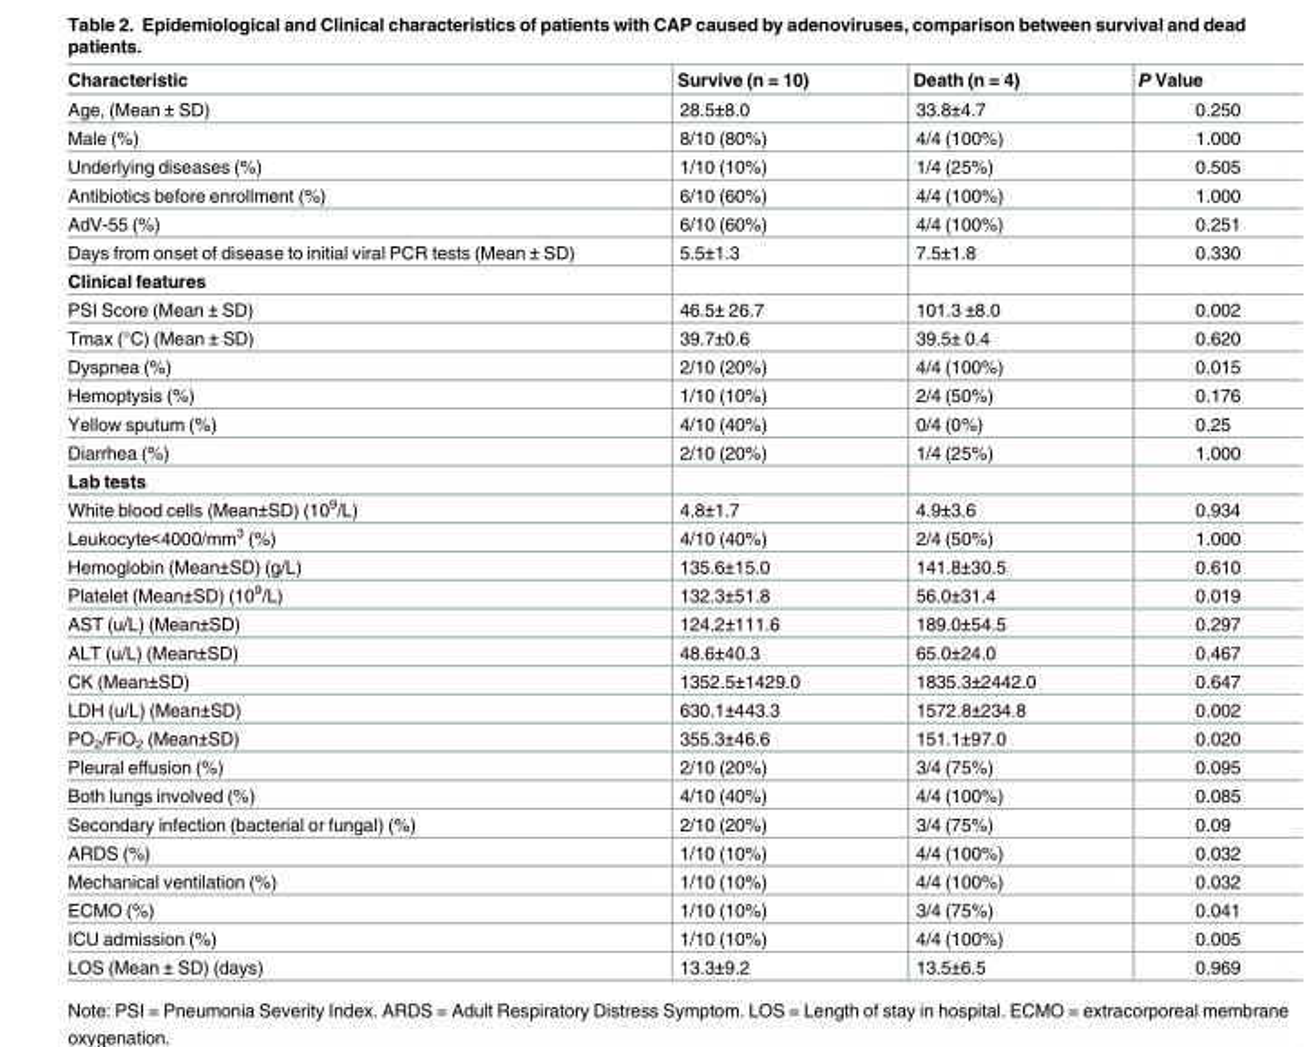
<table><thead><tr><td>Characteristic</td><td>Survive (n = 10)</td><td>Death (n = 4)</td><td>P Value</td></tr></thead><tbody><tr><td>Age, (Mean ± SD)</td><td>28.5±8.0</td><td>33.8±4.7</td><td>0.250</td></tr><tr><td>Male (%)</td><td>8/10 (80%)</td><td>4/4 (100%)</td><td>1.000</td></tr><tr><td>Underlying diseases (%)</td><td>1/10 (10%)</td><td>1/4 (25%)</td><td>0.505</td></tr><tr><td>Antibiotics before enrollment (%)</td><td>6/10 (60%)</td><td>4/4 (100%)</td><td>1.000</td></tr><tr><td>AdV-55 (%)</td><td>6/10 (60%)</td><td>4/4 (100%)</td><td>0.251</td></tr><tr><td>Days from onset of disease to initial viral PCR tests (Mean ± SD)</td><td>5.5±1.3</td><td>7.5±1.8</td><td>0.330</td></tr><tr><td colspan="4">Clinical features</td></tr><tr><td>PSI Score (Mean ± SD)</td><td>46.5± 26.7</td><td>101.3 ±8.0</td><td>0.002</td></tr><tr><td>Tmax (°C) (Mean ± SD)</td><td>39.7±0.6</td><td>39.5± 0.4</td><td>0.620</td></tr><tr><td>Dyspnea (%)</td><td>2/10 (20%)</td><td>4/4 (100%)</td><td>0.015</td></tr><tr><td>Hemoptysis (%)</td><td>1/10 (10%)</td><td>2/4 (50%)</td><td>0.176</td></tr><tr><td>Yellow sputum (%)</td><td>4/10 (40%)</td><td>0/4 (0%)</td><td>0.25</td></tr><tr><td>Diarrhea (%)</td><td>2/10 (20%)</td><td>1/4 (25%)</td><td>1.000</td></tr><tr><td colspan="4">Lab tests</td></tr><tr><td>White blood cells (Mean±SD) (10<sup>9</sup>/L)</td><td>4.8±1.7</td><td>4.9±3.6</td><td>0.934</td></tr><tr><td>Leukocyte&lt;4000/mm<sup>3</sup> (%)</td><td>4/10 (40%)</td><td>2/4 (50%)</td><td>1.000</td></tr><tr><td>Hemoglobin (Mean±SD) (g/L)</td><td>135.6±15.0</td><td>141.8±30.5</td><td>0.610</td></tr><tr><td>Platelet (Mean±SD) (10<sup>9</sup>/L)</td><td>132.3±51.8</td><td>56.0±31.4</td><td>0.019</td></tr><tr><td>AST (u/L) (Mean±SD)</td><td>124.2±111.6</td><td>189.0±54.5</td><td>0.297</td></tr><tr><td>ALT (u/L) (Mean±SD)</td><td>48.6±40.3</td><td>65.0±24.0</td><td>0.467</td></tr><tr><td>CK (Mean±SD)</td><td>1352.5±1429.0</td><td>1835.3±2442.0</td><td>0.647</td></tr><tr><td>LDH (u/L) (Mean±SD)</td><td>630.1±443.3</td><td>1572.8±234.8</td><td>0.002</td></tr><tr><td>PO<sub>2</sub>/FiO<sub>2</sub> (Mean±SD)</td><td>355.3±46.6</td><td>151.1±97.0</td><td>0.020</td></tr><tr><td>Pleural effusion (%)</td><td>2/10 (20%)</td><td>3/4 (75%)</td><td>0.095</td></tr><tr><td>Both lungs involved (%)</td><td>4/10 (40%)</td><td>4/4 (100%)</td><td>0.085</td></tr><tr><td>Secondary infection (bacterial or fungal) (%)</td><td>2/10 (20%)</td><td>3/4 (75%)</td><td>0.09</td></tr><tr><td>ARDS (%)</td><td>1/10 (10%)</td><td>4/4 (100%)</td><td>0.032</td></tr><tr><td>Mechanical ventilation (%)</td><td>1/10 (10%)</td><td>4/4 (100%)</td><td>0.032</td></tr><tr><td>ECMO (%)</td><td>1/10 (10%)</td><td>3/4 (75%)</td><td>0.041</td></tr><tr><td>ICU admission (%)</td><td>1/10 (10%)</td><td>4/4 (100%)</td><td>0.005</td></tr><tr><td>LOS (Mean ± SD) (days)</td><td>13.3±9.2</td><td>13.5±6.5</td><td>0.969</td></tr></tbody></table>